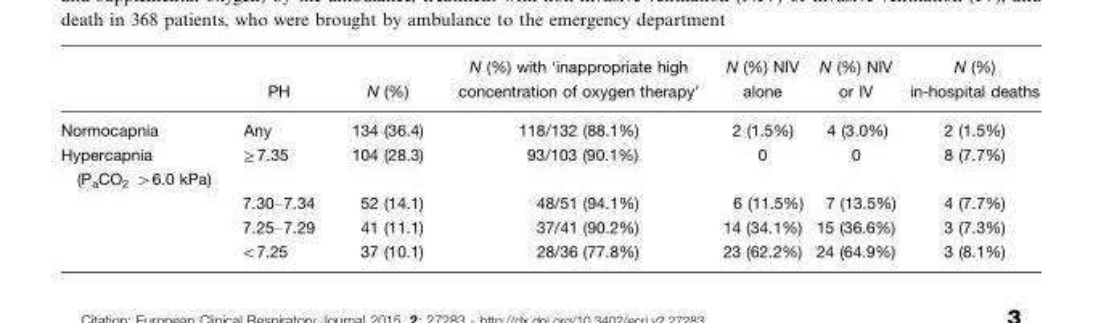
<table><thead><tr><td></td><td>PH</td><td>N (%)</td><td>N (%) with ‘inappropriate high concentration of oxygen therapy’</td><td>N (%) NIV alone</td><td>N (%) NIV or IV</td><td>N (%) in-hospital deaths</td></tr></thead><tbody><tr><td>Normocapnia</td><td>Any</td><td>134 (36.4)</td><td>118/132 (88.1%)</td><td>2 (1.5%)</td><td>4 (3.0%)</td><td>2 (1.5%)</td></tr><tr><td rowspan="4">Hypercapnia (P<sub>a</sub>CO<sub>2</sub> &gt;6.0 kPa)</td><td>≥7.35</td><td>104 (28.3)</td><td>93/103 (90.1%)</td><td>0</td><td>0</td><td>8 (7.7%)</td></tr><tr><td>7.30–7.34</td><td>52 (14.1)</td><td>48/51 (94.1%)</td><td>6 (11.5%)</td><td>7 (13.5%)</td><td>4 (7.7%)</td></tr><tr><td>7.25–7.29</td><td>41 (11.1)</td><td>37/41 (90.2%)</td><td>14 (34.1%)</td><td>15 (36.6%)</td><td>3 (7.3%)</td></tr><tr><td>&lt;7.25</td><td>37 (10.1)</td><td>28/36 (77.8%)</td><td>23 (62.2%)</td><td>24 (64.9%)</td><td>3 (8.1%)</td></tr></tbody></table>